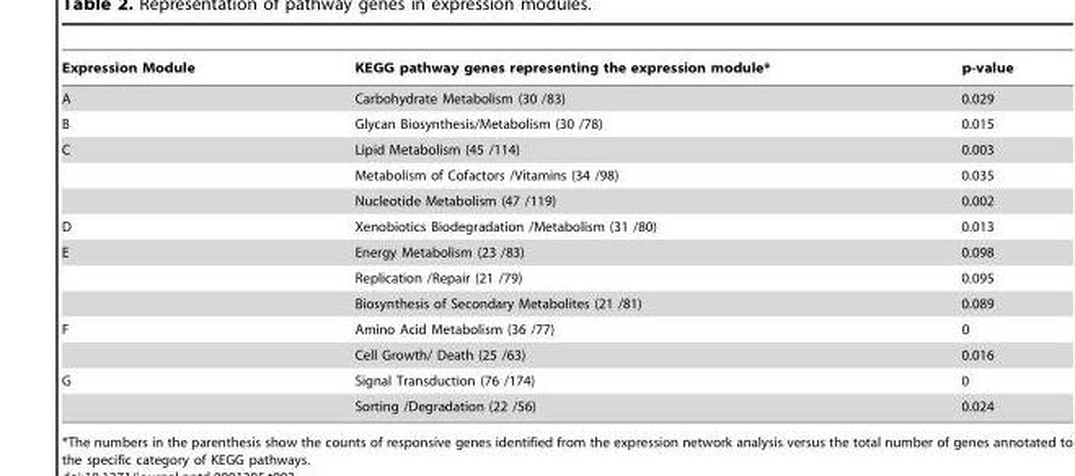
<table><thead><tr><td>Expression Module</td><td>KEGG pathway genes representing the expression module*</td><td>p-value</td></tr></thead><tbody><tr><td>A</td><td>Carbohydrate Metabolism (30 /83)</td><td>0.029</td></tr><tr><td>B</td><td>Glycan Biosynthesis/Metabolism (30 /78)</td><td>0.015</td></tr><tr><td rowspan="3">C</td><td>Lipid Metabolism (45 /114)</td><td>0.003</td></tr><tr><td>Metabolism of Cofactors /Vitamins (34 /98)</td><td>0.035</td></tr><tr><td>Nucleotide Metabolism (47 /119)</td><td>0.002</td></tr><tr><td>D</td><td>Xenobiotics Biodegradation /Metabolism (31 /80)</td><td>0.013</td></tr><tr><td rowspan="3">E</td><td>Energy Metabolism (23 /83)</td><td>0.098</td></tr><tr><td>Replication /Repair (21 /79)</td><td>0.095</td></tr><tr><td>Biosynthesis of Secondary Metabolites (21 /81)</td><td>0.089</td></tr><tr><td rowspan="2">F</td><td>Amino Acid Metabolism (36 /77)</td><td>0</td></tr><tr><td>Cell Growth/ Death (25 /63)</td><td>0.016</td></tr><tr><td rowspan="2">G</td><td>Signal Transduction (76 /174)</td><td>0</td></tr><tr><td>Sorting /Degradation (22 /56)</td><td>0.024</td></tr></tbody></table>